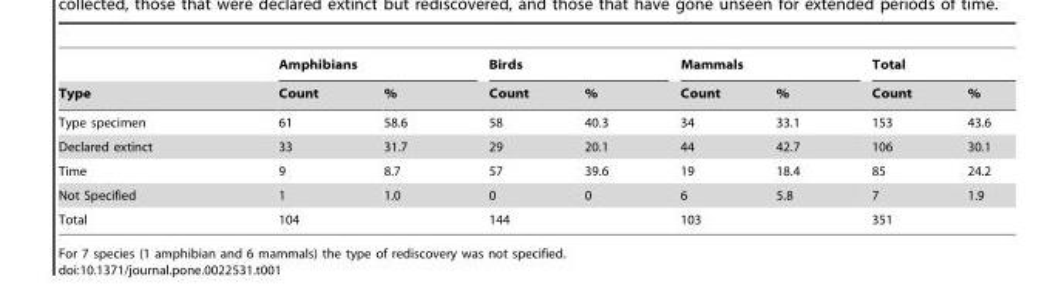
<table><thead><tr><td rowspan="2">Type</td><td colspan="2">Amphibians</td><td colspan="2">Birds</td><td colspan="2">Mammals</td><td colspan="2">Total</td></tr><tr><td>Count</td><td>%</td><td>Count</td><td>%</td><td>Count</td><td>%</td><td>Count</td><td>%</td></tr></thead><tbody><tr><td>Type specimen</td><td>61</td><td>58.6</td><td>58</td><td>40.3</td><td>34</td><td>33.1</td><td>153</td><td>43.6</td></tr><tr><td>Declared extinct</td><td>33</td><td>31.7</td><td>29</td><td>20.1</td><td>44</td><td>42.7</td><td>106</td><td>30.1</td></tr><tr><td>Time</td><td>9</td><td>8.7</td><td>57</td><td>39.6</td><td>19</td><td>18.4</td><td>85</td><td>24.2</td></tr><tr><td>Not Specified</td><td>1</td><td>1.0</td><td>0</td><td>0</td><td>6</td><td>5.8</td><td>7</td><td>1.9</td></tr><tr><td>Total</td><td>104</td><td></td><td>144</td><td></td><td>103</td><td></td><td>351</td><td></td></tr></tbody></table>